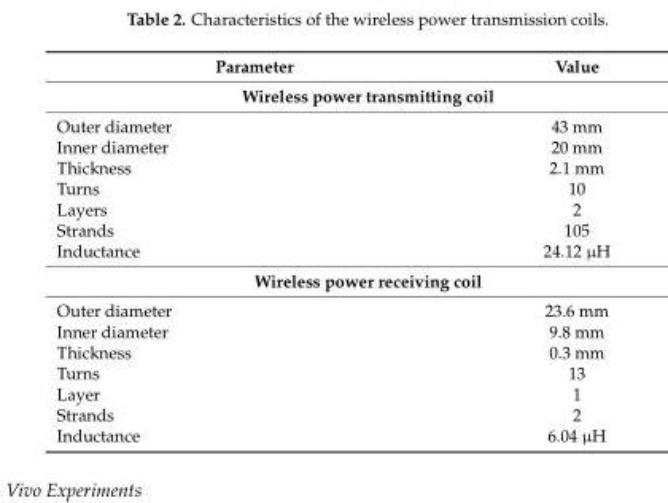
<table><thead><tr><td>Parameter</td><td>Value</td></tr></thead><tbody><tr><td colspan="2">Wireless power transmitting coil</td></tr><tr><td>Outer diameter</td><td>43 mm</td></tr><tr><td>Inner diameter</td><td>20 mm</td></tr><tr><td>Thickness</td><td>2.1 mm</td></tr><tr><td>Turns</td><td>10</td></tr><tr><td>Layers</td><td>2</td></tr><tr><td>Strands</td><td>105</td></tr><tr><td>Inductance</td><td>24.12 µH</td></tr><tr><td colspan="2">Wireless power receiving coil</td></tr><tr><td>Outer diameter</td><td>23.6 mm</td></tr><tr><td>Inner diameter</td><td>9.8 mm</td></tr><tr><td>Thickness</td><td>0.3 mm</td></tr><tr><td>Turns</td><td>13</td></tr><tr><td>Layer</td><td>1</td></tr><tr><td>Strands</td><td>2</td></tr><tr><td>Inductance</td><td>6.04 µH</td></tr></tbody></table>